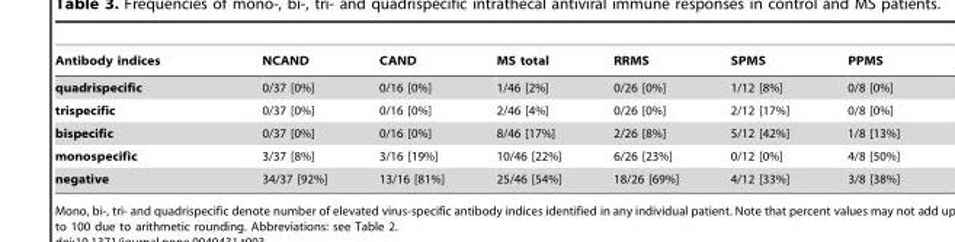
<table><thead><tr><td>Antibody indices</td><td>NCAND</td><td>CAND</td><td>MS total</td><td>RRMS</td><td>SPMS</td><td>PPMS</td></tr></thead><tbody><tr><td>quadrispecific</td><td>0/37 [0%]</td><td>0/16 [0%]</td><td>1/46 [2%]</td><td>0/26 [0%]</td><td>1/12 [8%]</td><td>0/8 [0%]</td></tr><tr><td>trispecific</td><td>0/37 [0%]</td><td>0/16 [0%]</td><td>2/46 [4%]</td><td>0/26 [0%]</td><td>2/12 [17%]</td><td>0/8 [0%]</td></tr><tr><td>bispecific</td><td>0/37 [0%]</td><td>0/16 [0%]</td><td>8/46 [17%]</td><td>2/26 [8%]</td><td>5/12 [42%]</td><td>1/8 [13%]</td></tr><tr><td>monospecific</td><td>3/37 [8%]</td><td>3/16 [19%]</td><td>10/46 [22%]</td><td>6/26 [23%]</td><td>0/12 [0%]</td><td>4/8 [50%]</td></tr><tr><td>negative</td><td>34/37 [92%]</td><td>13/16 [81%]</td><td>25/46 [54%]</td><td>18/26 [69%]</td><td>4/12 [33%]</td><td>3/8 [38%]</td></tr></tbody></table>